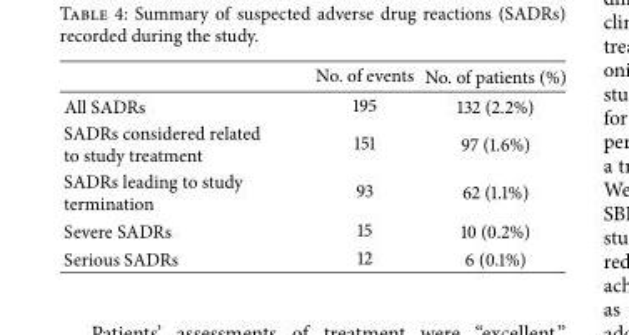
<table><thead><tr><td></td><td>No. of events</td><td>No. of patients (%)</td></tr></thead><tbody><tr><td>All SADRs</td><td>195</td><td>132 (2.2%)</td></tr><tr><td>SADRs considered related to study treatment</td><td>151</td><td>97 (1.6%)</td></tr><tr><td>SADRs leading to study termination</td><td>93</td><td>62 (1.1%)</td></tr><tr><td>Severe SADRs</td><td>15</td><td>10 (0.2%)</td></tr><tr><td>Serious SADRs</td><td>12</td><td>6 (0.1%)</td></tr></tbody></table>